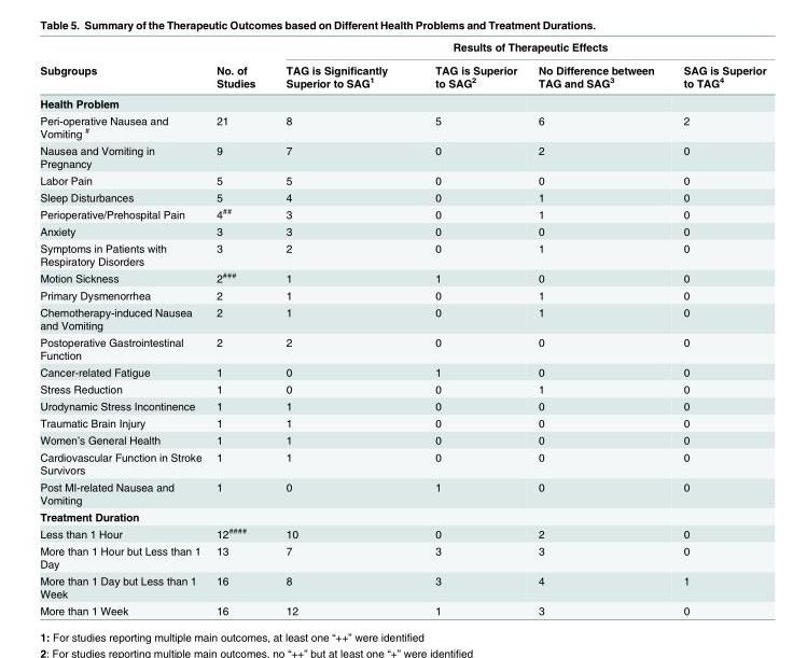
<table><thead><tr><td rowspan="2">Subgroups</td><td rowspan="2">No. of Studies</td><td colspan="4">Results of Therapeutic Effects</td></tr><tr><td>TAG is Significantly Superior to SAG<sup>1</sup></td><td>TAG is Superior to SAG<sup>2</sup></td><td>No Difference between TAG and SAG<sup>3</sup></td><td>SAG is Superior to TAG<sup>4</sup></td></tr></thead><tbody><tr><td colspan="6">Health Problem</td></tr><tr><td>Peri-operative Nausea and Vomiting <sup>#</sup></td><td>21</td><td>8</td><td>5</td><td>6</td><td>2</td></tr><tr><td>Nausea and Vomiting in Pregnancy</td><td>9</td><td>7</td><td>0</td><td>2</td><td>0</td></tr><tr><td>Labor Pain</td><td>5</td><td>5</td><td>0</td><td>0</td><td>0</td></tr><tr><td>Sleep Disturbances</td><td>5</td><td>4</td><td>0</td><td>1</td><td>0</td></tr><tr><td>Perioperative/Prehospital Pain</td><td>4<sup>##</sup></td><td>3</td><td>0</td><td>1</td><td>0</td></tr><tr><td>Anxiety</td><td>3</td><td>3</td><td>0</td><td>0</td><td>0</td></tr><tr><td>Symptoms in Patients with Respiratory Disorders</td><td>3</td><td>2</td><td>0</td><td>1</td><td>0</td></tr><tr><td>Motion Sickness</td><td>2<sup>###</sup></td><td>1</td><td>1</td><td>0</td><td>0</td></tr><tr><td>Primary Dysmenorrhea</td><td>2</td><td>1</td><td>0</td><td>1</td><td>0</td></tr><tr><td>Chemotherapy-induced Nausea and Vomiting</td><td>2</td><td>1</td><td>0</td><td>1</td><td>0</td></tr><tr><td>Postoperative Gastrointestinal Function</td><td>2</td><td>2</td><td>0</td><td>0</td><td>0</td></tr><tr><td>Cancer-related Fatigue</td><td>1</td><td>0</td><td>1</td><td>0</td><td>0</td></tr><tr><td>Stress Reduction</td><td>1</td><td>0</td><td>0</td><td>1</td><td>0</td></tr><tr><td>Urodynamic Stress Incontinence</td><td>1</td><td>1</td><td>0</td><td>0</td><td>0</td></tr><tr><td>Traumatic Brain Injury</td><td>1</td><td>1</td><td>0</td><td>0</td><td>0</td></tr><tr><td>Women’s General Health</td><td>1</td><td>1</td><td>0</td><td>0</td><td>0</td></tr><tr><td>Cardiovascular Function in Stroke Survivors</td><td>1</td><td>1</td><td>0</td><td>0</td><td>0</td></tr><tr><td>Post MI-related Nausea and Vomiting</td><td>1</td><td>0</td><td>1</td><td>0</td><td>0</td></tr><tr><td colspan="6">Treatment Duration</td></tr><tr><td>Less than 1 Hour</td><td>12<sup>####</sup></td><td>10</td><td>0</td><td>2</td><td>0</td></tr><tr><td>More than 1 Hour but Less than 1 Day</td><td>13</td><td>7</td><td>3</td><td>3</td><td>0</td></tr><tr><td>More than 1 Day but Less than 1 Week</td><td>16</td><td>8</td><td>3</td><td>4</td><td>1</td></tr><tr><td>More than 1 Week</td><td>16</td><td>12</td><td>1</td><td>3</td><td>0</td></tr></tbody></table>